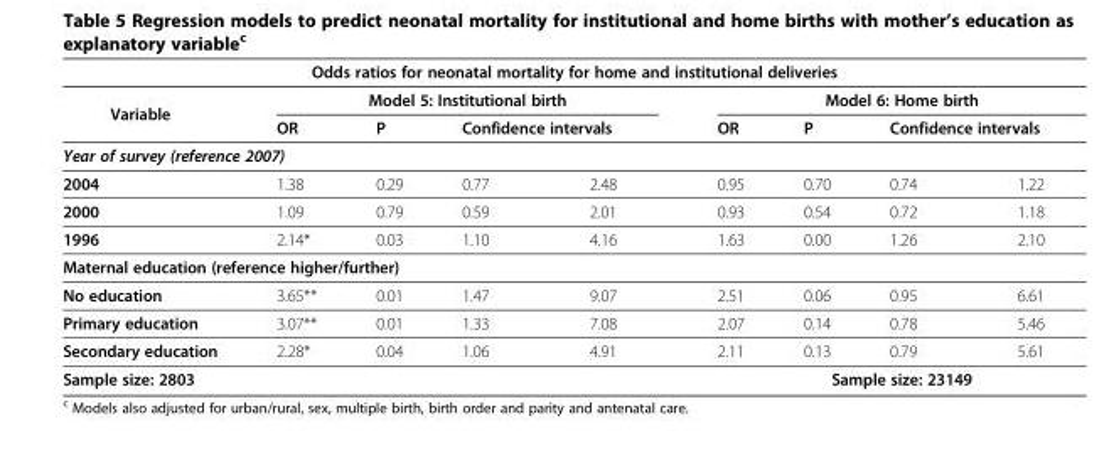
<table><thead><tr><td colspan="9">Odds ratios for neonatal mortality for home and institutional deliveries</td></tr><tr><td rowspan="2">Variable</td><td colspan="4">Model 5: Institutional birth</td><td colspan="4">Model 6: Home birth</td></tr><tr><td>OR</td><td>P</td><td colspan="2">Confidence intervals</td><td>OR</td><td>P</td><td colspan="2">Confidence intervals</td></tr><tr><td colspan="9">Year of survey (reference 2007)</td></tr><tr><td>2004</td><td>1.38</td><td>0.29</td><td>0.77</td><td>2.48</td><td>0.95</td><td>0.70</td><td>0.74</td><td>1.22</td></tr></thead><tbody><tr><td>2000</td><td>1.09</td><td>0.79</td><td>0.59</td><td>2.01</td><td>0.93</td><td>0.54</td><td>0.72</td><td>1.18</td></tr><tr><td>1996</td><td>2.14*</td><td>0.03</td><td>1.10</td><td>4.16</td><td>1.63</td><td>0.00</td><td>1.26</td><td>2.10</td></tr><tr><td colspan="9">Maternal education (reference higher/further)</td></tr><tr><td>No education</td><td>3.65**</td><td>0.01</td><td>1.47</td><td>9.07</td><td>2.51</td><td>0.06</td><td>0.95</td><td>6.61</td></tr><tr><td>Primary education</td><td>3.07**</td><td>0.01</td><td>1.33</td><td>7.08</td><td>2.07</td><td>0.14</td><td>0.78</td><td>5.46</td></tr><tr><td>Secondary education</td><td>2.28*</td><td>0.04</td><td>1.06</td><td>4.91</td><td>2.11</td><td>0.13</td><td>0.79</td><td>5.61</td></tr><tr><td colspan="5">Sample size: 2803</td><td colspan="4">Sample size: 23149</td></tr></tbody></table>